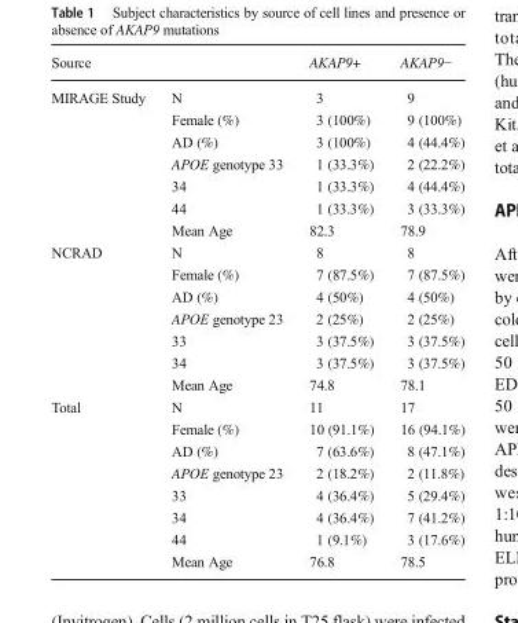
<table><thead><tr><td>Source</td><td></td><td>AKAP9+</td><td>AKAP9−</td></tr></thead><tbody><tr><td rowspan="7">MIRAGE Study</td><td>N</td><td>3</td><td>9</td></tr><tr><td>Female (%)</td><td>3 (100%)</td><td>9 (100%)</td></tr><tr><td>AD (%)</td><td>3 (100%)</td><td>4 (44.4%)</td></tr><tr><td>APOE genotype 33</td><td>1 (33.3%)</td><td>2 (22.2%)</td></tr><tr><td>34</td><td>1 (33.3%)</td><td>4 (44.4%)</td></tr><tr><td>44</td><td>1 (33.3%)</td><td>3 (33.3%)</td></tr><tr><td>Mean Age</td><td>82.3</td><td>78.9</td></tr><tr><td rowspan="7">NCRAD</td><td>N</td><td>8</td><td>8</td></tr><tr><td>Female (%)</td><td>7 (87.5%)</td><td>7 (87.5%)</td></tr><tr><td>AD (%)</td><td>4 (50%)</td><td>4 (50%)</td></tr><tr><td>APOE genotype 23</td><td>2 (25%)</td><td>2 (25%)</td></tr><tr><td>33</td><td>3 (37.5%)</td><td>3 (37.5%)</td></tr><tr><td>34</td><td>3 (37.5%)</td><td>3 (37.5%)</td></tr><tr><td>Mean Age</td><td>74.8</td><td>78.1</td></tr><tr><td rowspan="8">Total</td><td>N</td><td>11</td><td>17</td></tr><tr><td>Female (%)</td><td>10 (91.1%)</td><td>16 (94.1%)</td></tr><tr><td>AD (%)</td><td>7 (63.6%)</td><td>8 (47.1%)</td></tr><tr><td>APOE genotype 23</td><td>2 (18.2%)</td><td>2 (11.8%)</td></tr><tr><td>33</td><td>4 (36.4%)</td><td>5 (29.4%)</td></tr><tr><td>34</td><td>4 (36.4%)</td><td>7 (41.2%)</td></tr><tr><td>44</td><td>1 (9.1%)</td><td>3 (17.6%)</td></tr><tr><td>Mean Age</td><td>76.8</td><td>78.5</td></tr></tbody></table>